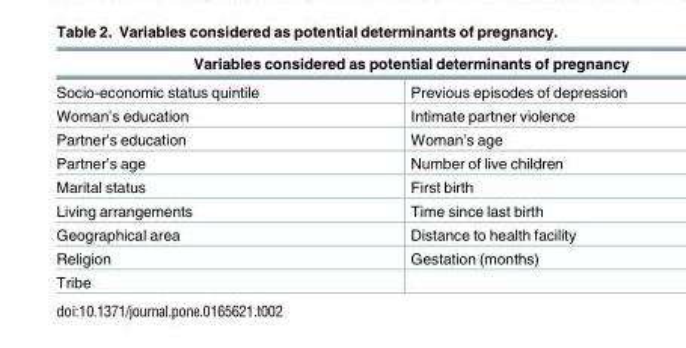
<table><thead><tr><td colspan="2">Variables considered as potential determinants of pregnancy</td></tr><tr><td>Socio-economic status quintile</td><td>Previous episodes of depression</td></tr></thead><tbody><tr><td>Woman’s education</td><td>Intimate partner violence</td></tr><tr><td>Partner’s education</td><td>Woman’s age</td></tr><tr><td>Partner’s age</td><td>Number of live children</td></tr><tr><td>Marital status</td><td>First birth</td></tr><tr><td>Living arrangements</td><td>Time since last birth</td></tr><tr><td>Geographical area</td><td>Distance to health facility</td></tr><tr><td>Religion</td><td>Gestation (months)</td></tr><tr><td>Tribe</td><td></td></tr></tbody></table>